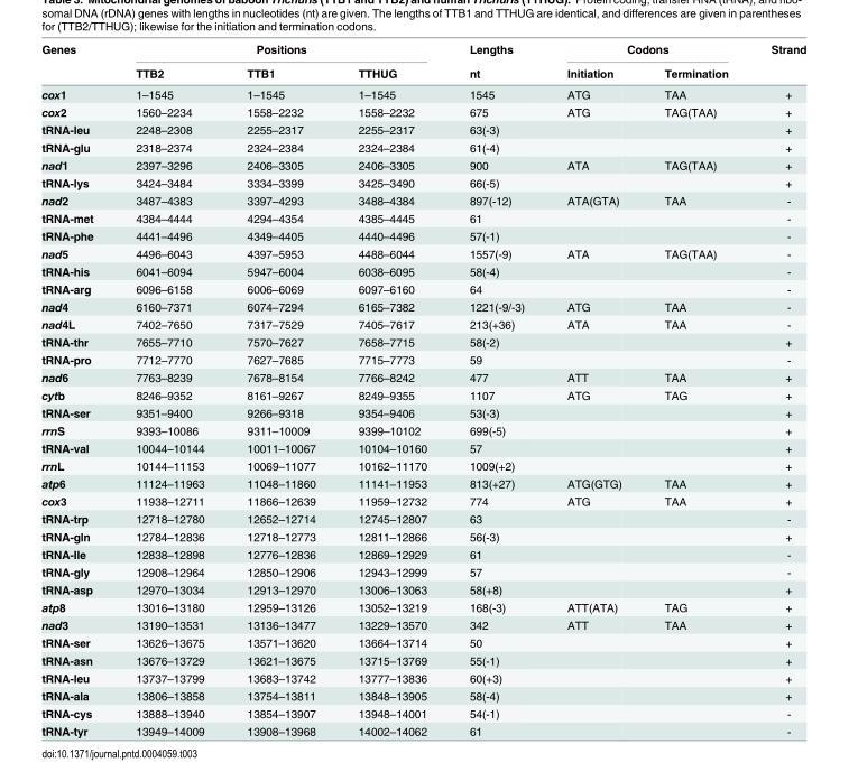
<table><thead><tr><td rowspan="2">Genes</td><td colspan="3">Positions</td><td rowspan="2">Lengths nt</td><td colspan="2">Codons</td><td rowspan="2">Strand</td></tr><tr><td>TTB2</td><td>TTB1</td><td>TTHUG</td><td>Initiation</td><td>Termination</td></tr></thead><tbody><tr><td>cox1</td><td>1–1545</td><td>1–1545</td><td>1–1545</td><td>1545</td><td>ATG</td><td>TAA</td><td>+</td></tr><tr><td>cox2</td><td>1560–2234</td><td>1558–2232</td><td>1558–2232</td><td>675</td><td>ATG</td><td>TAG(TAA)</td><td>+</td></tr><tr><td>tRNA-leu</td><td>2248–2308</td><td>2255–2317</td><td>2255–2317</td><td>63(-3)</td><td></td><td></td><td>+</td></tr><tr><td>tRNA-glu</td><td>2318–2374</td><td>2324–2384</td><td>2324–2384</td><td>61(-4)</td><td></td><td></td><td>+</td></tr><tr><td>nad1</td><td>2397–3296</td><td>2406–3305</td><td>2406–3305</td><td>900</td><td>ATA</td><td>TAG(TAA)</td><td>+</td></tr><tr><td>tRNA-lys</td><td>3424–3484</td><td>3334–3399</td><td>3425–3490</td><td>66(-5)</td><td></td><td></td><td>+</td></tr><tr><td>nad2</td><td>3487–4383</td><td>3397–4293</td><td>3488–4384</td><td>897(-12)</td><td>ATA(GTA)</td><td>TAA</td><td>-</td></tr><tr><td>tRNA-met</td><td>4384–4444</td><td>4294–4354</td><td>4385–4445</td><td>61</td><td></td><td></td><td>-</td></tr><tr><td>tRNA-phe</td><td>4441–4496</td><td>4349–4405</td><td>4440–4496</td><td>57(-1)</td><td></td><td></td><td>-</td></tr><tr><td>nad5</td><td>4496–6043</td><td>4397–5953</td><td>4488–6044</td><td>1557(-9)</td><td>ATA</td><td>TAG(TAA)</td><td>-</td></tr><tr><td>tRNA-his</td><td>6041–6094</td><td>5947–6004</td><td>6038–6095</td><td>58(-4)</td><td></td><td></td><td>-</td></tr><tr><td>tRNA-arg</td><td>6096–6158</td><td>6006–6069</td><td>6097–6160</td><td>64</td><td></td><td></td><td>-</td></tr><tr><td>nad4</td><td>6160–7371</td><td>6074–7294</td><td>6165–7382</td><td>1221(-9/-3)</td><td>ATG</td><td>TAA</td><td>-</td></tr><tr><td>nad4L</td><td>7402–7650</td><td>7317–7529</td><td>7405–7617</td><td>213(+36)</td><td>ATA</td><td>TAA</td><td>-</td></tr><tr><td>tRNA-thr</td><td>7655–7710</td><td>7570–7627</td><td>7658–7715</td><td>58(-2)</td><td></td><td></td><td>+</td></tr><tr><td>tRNA-pro</td><td>7712–7770</td><td>7627–7685</td><td>7715–7773</td><td>59</td><td></td><td></td><td>-</td></tr><tr><td>nad6</td><td>7763–8239</td><td>7678–8154</td><td>7766–8242</td><td>477</td><td>ATT</td><td>TAA</td><td>+</td></tr><tr><td>cytb</td><td>8246–9352</td><td>8161–9267</td><td>8249–9355</td><td>1107</td><td>ATG</td><td>TAG</td><td>+</td></tr><tr><td>tRNA-ser</td><td>9351–9400</td><td>9266–9318</td><td>9354–9406</td><td>53(-3)</td><td></td><td></td><td>+</td></tr><tr><td>rrnS</td><td>9393–10086</td><td>9311–10009</td><td>9399–10102</td><td>699(-5)</td><td></td><td></td><td>+</td></tr><tr><td>tRNA-val</td><td>10044–10144</td><td>10011–10067</td><td>10104–10160</td><td>57</td><td></td><td></td><td>+</td></tr><tr><td>rrnL</td><td>10144–11153</td><td>10069–11077</td><td>10162–11170</td><td>1009(+2)</td><td></td><td></td><td>+</td></tr><tr><td>atp6</td><td>11124–11963</td><td>11048–11860</td><td>11141–11953</td><td>813(+27)</td><td>ATG(GTG)</td><td>TAA</td><td>+</td></tr><tr><td>cox3</td><td>11938–12711</td><td>11866–12639</td><td>11959–12732</td><td>774</td><td>ATG</td><td>TAA</td><td>+</td></tr><tr><td>tRNA-trp</td><td>12718–12780</td><td>12652–12714</td><td>12745–12807</td><td>63</td><td></td><td></td><td>-</td></tr><tr><td>tRNA-gln</td><td>12784–12836</td><td>12718–12773</td><td>12811–12866</td><td>56(-3)</td><td></td><td></td><td>+</td></tr><tr><td>tRNA-Ile</td><td>12838–12898</td><td>12776–12836</td><td>12869–12929</td><td>61</td><td></td><td></td><td>-</td></tr><tr><td>tRNA-gly</td><td>12908–12964</td><td>12850–12906</td><td>12943–12999</td><td>57</td><td></td><td></td><td>-</td></tr><tr><td>tRNA-asp</td><td>12970–13034</td><td>12913–12970</td><td>13006–13063</td><td>58(+8)</td><td></td><td></td><td>+</td></tr><tr><td>atp8</td><td>13016–13180</td><td>12959–13126</td><td>13052–13219</td><td>168(-3)</td><td>ATT(ATA)</td><td>TAG</td><td>+</td></tr><tr><td>nad3</td><td>13190–13531</td><td>13136–13477</td><td>13229–13570</td><td>342</td><td>ATT</td><td>TAA</td><td>+</td></tr><tr><td>tRNA-ser</td><td>13626–13675</td><td>13571–13620</td><td>13664–13714</td><td>50</td><td></td><td></td><td>+</td></tr><tr><td>tRNA-asn</td><td>13676–13729</td><td>13621–13675</td><td>13715–13769</td><td>55(-1)</td><td></td><td></td><td>+</td></tr><tr><td>tRNA-leu</td><td>13737–13799</td><td>13683–13742</td><td>13777–13836</td><td>60(+3)</td><td></td><td></td><td>+</td></tr><tr><td>tRNA-ala</td><td>13806–13858</td><td>13754–13811</td><td>13848–13905</td><td>58(-4)</td><td></td><td></td><td>+</td></tr><tr><td>tRNA-cys</td><td>13888–13940</td><td>13854–13907</td><td>13948–14001</td><td>54(-1)</td><td></td><td></td><td>-</td></tr><tr><td>tRNA-tyr</td><td>13949–14009</td><td>13908–13968</td><td>14002–14062</td><td>61</td><td></td><td></td><td>-</td></tr></tbody></table>